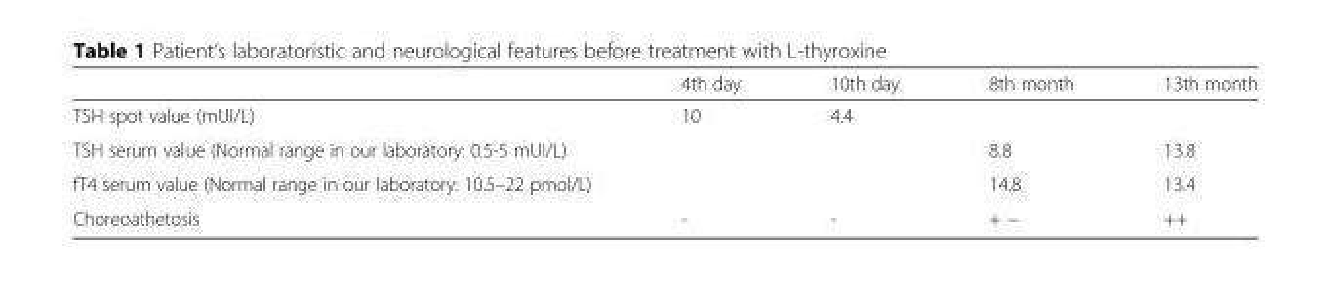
<table><thead><tr><td></td><td>4th day</td><td>10th day</td><td>8th month</td><td>13th month</td></tr></thead><tbody><tr><td>TSH spot value (mUI/L)</td><td>10</td><td>4.4</td><td></td><td></td></tr><tr><td>TSH serum value (Normal range in our laboratory: 0.5-5 mUI/L)</td><td></td><td></td><td>8.8</td><td>13.8</td></tr><tr><td>fT4 serum value (Normal range in our laboratory: 10.5–22 pmol/L)</td><td></td><td></td><td>14.8</td><td>13.4</td></tr><tr><td>Choreoathetosis</td><td>-</td><td>-</td><td>+ −</td><td>++</td></tr></tbody></table>